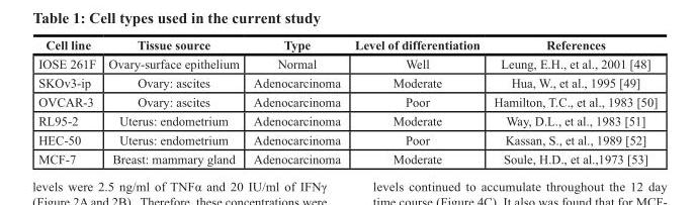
<table><thead><tr><td>Cell line</td><td>Tissue source</td><td>Type</td><td>Level of differentiation</td><td>References</td></tr></thead><tbody><tr><td>IOSE 261F</td><td>Ovary-surface epithelium</td><td>Normal</td><td>Well</td><td>Leung, E.H., et al., 2001 [48]</td></tr><tr><td>SKOv3-ip</td><td>Ovary: ascites</td><td>Adenocarcinoma</td><td>Moderate</td><td>Hua, W., et al., 1995 [49]</td></tr><tr><td>OVCAR-3</td><td>Ovary: ascites</td><td>Adenocarcinoma</td><td>Poor</td><td>Hamilton, T.C., et al., 1983 [50]</td></tr><tr><td>RL95-2</td><td>Uterus: endometrium</td><td>Adenocarcinoma</td><td>Moderate</td><td>Way, D.L., et al., 1983 [51]</td></tr><tr><td>HEC-50</td><td>Uterus: endometrium</td><td>Adenocarcinoma</td><td>Poor</td><td>Kassan, S., et al., 1989 [52]</td></tr><tr><td>MCF-7</td><td>Breast: mammary gland</td><td>Adenocarcinoma</td><td>Moderate</td><td>Soule, H.D., et al.,1973 [53]</td></tr></tbody></table>